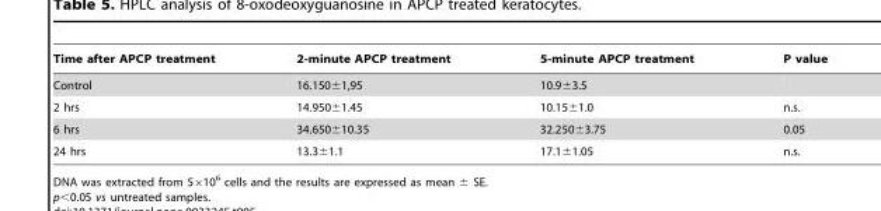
<table><thead><tr><td>Time after APCP treatment</td><td>2-minute APCP treatment</td><td>5-minute APCP treatment</td><td>P value</td></tr></thead><tbody><tr><td>Control</td><td>16.150±1,95</td><td>10.9±3.5</td><td></td></tr><tr><td>2 hrs</td><td>14.950±1.45</td><td>10.15±1.0</td><td>n.s.</td></tr><tr><td>6 hrs</td><td>34.650±10.35</td><td>32.250±3.75</td><td>0.05</td></tr><tr><td>24 hrs</td><td>13.3±1.1</td><td>17.1±1.05</td><td>n.s.</td></tr></tbody></table>